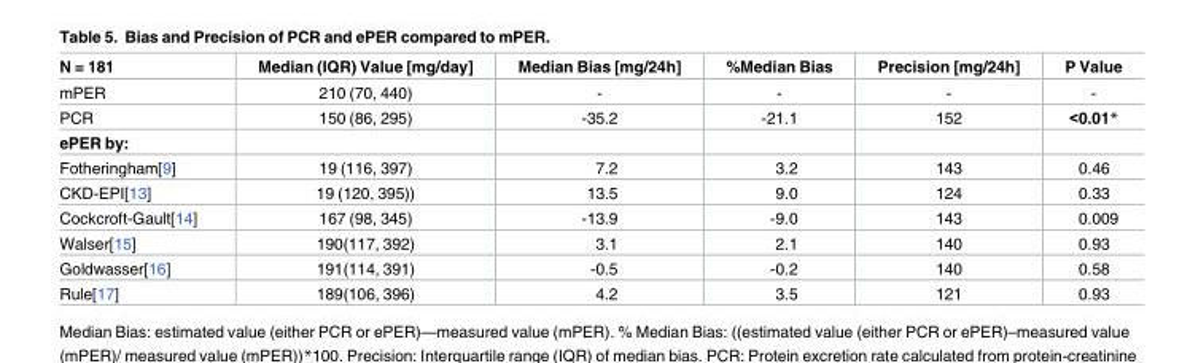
<table><thead><tr><td>N = 181</td><td>Median (IQR) Value [mg/day]</td><td>Median Bias [mg/24h]</td><td>%Median Bias</td><td>Precision [mg/24h]</td><td>P Value</td></tr></thead><tbody><tr><td>mPER</td><td>210 (70, 440)</td><td>-</td><td>-</td><td>-</td><td>-</td></tr><tr><td>PCR</td><td>150 (86, 295)</td><td>-35.2</td><td>-21.1</td><td>152</td><td>&lt;0.01*</td></tr><tr><td colspan="6">ePER by:</td></tr><tr><td>Fotheringham[9]</td><td>19 (116, 397)</td><td>7.2</td><td>3.2</td><td>143</td><td>0.46</td></tr><tr><td>CKD-EPI[13]</td><td>19 (120, 395))</td><td>13.5</td><td>9.0</td><td>124</td><td>0.33</td></tr><tr><td>Cockcroft-Gault[14]</td><td>167 (98, 345)</td><td>-13.9</td><td>-9.0</td><td>143</td><td>0.009</td></tr><tr><td>Walser[15]</td><td>190(117, 392)</td><td>3.1</td><td>2.1</td><td>140</td><td>0.93</td></tr><tr><td>Goldwasser[16]</td><td>191(114, 391)</td><td>-0.5</td><td>-0.2</td><td>140</td><td>0.58</td></tr><tr><td>Rule[17]</td><td>189(106, 396)</td><td>4.2</td><td>3.5</td><td>121</td><td>0.93</td></tr></tbody></table>